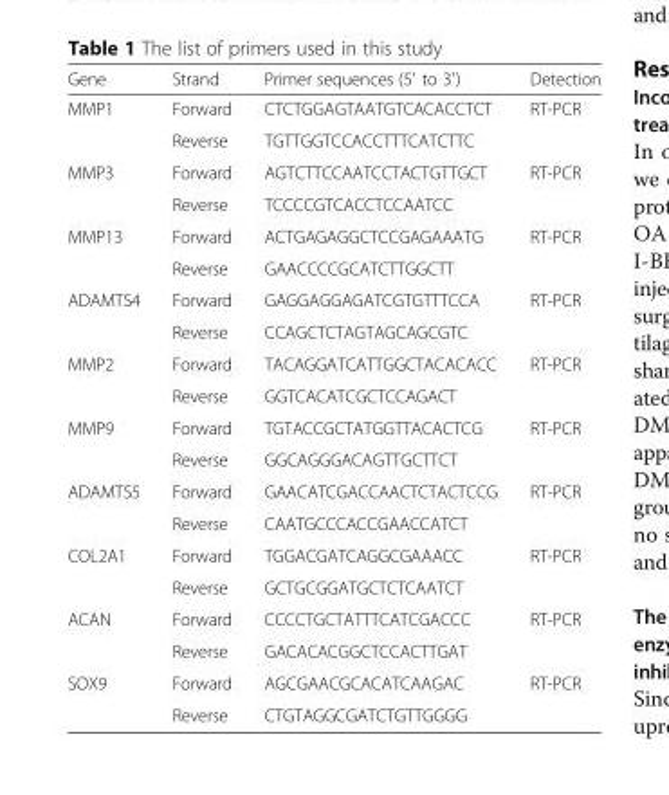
<table><thead><tr><td>Gene</td><td>Strand</td><td>Primer sequences (5′ to 3′)</td><td>Detection</td></tr></thead><tbody><tr><td rowspan="2">MMP1</td><td>Forward</td><td>CTCTGGAGTAATGTCACACCTCT</td><td rowspan="2">RT-PCR</td></tr><tr><td>Reverse</td><td>TGTTGGTCCACCTTTCATCTTC</td></tr><tr><td rowspan="2">MMP3</td><td>Forward</td><td>AGTCTTCCAATCCTACTGTTGCT</td><td rowspan="2">RT-PCR</td></tr><tr><td>Reverse</td><td>TCCCCGTCACCTCCAATCC</td></tr><tr><td rowspan="2">MMP13</td><td>Forward</td><td>ACTGAGAGGCTCCGAGAAATG</td><td rowspan="2">RT-PCR</td></tr><tr><td>Reverse</td><td>GAACCCCGCATCTTGGCTT</td></tr><tr><td rowspan="2">ADAMTS4</td><td>Forward</td><td>GAGGAGGAGATCGTGTTTCCA</td><td rowspan="2">RT-PCR</td></tr><tr><td>Reverse</td><td>CCAGCTCTAGTAGCAGCGTC</td></tr><tr><td rowspan="2">MMP2</td><td>Forward</td><td>TACAGGATCATTGGCTACACACC</td><td rowspan="2">RT-PCR</td></tr><tr><td>Reverse</td><td>GGTCACATCGCTCCAGACT</td></tr><tr><td rowspan="2">MMP9</td><td>Forward</td><td>TGTACCGCTATGGTTACACTCG</td><td rowspan="2">RT-PCR</td></tr><tr><td>Reverse</td><td>GGCAGGGACAGTTGCTTCT</td></tr><tr><td rowspan="2">ADAMTS5</td><td>Forward</td><td>GAACATCGACCAACTCTACTCCG</td><td rowspan="2">RT-PCR</td></tr><tr><td>Reverse</td><td>CAATGCCCACCGAACCATCT</td></tr><tr><td rowspan="2">COL2A1</td><td>Forward</td><td>TGGACGATCAGGCGAAACC</td><td rowspan="2">RT-PCR</td></tr><tr><td>Reverse</td><td>GCTGCGGATGCTCTCAATCT</td></tr><tr><td rowspan="2">ACAN</td><td>Forward</td><td>CCCCTGCTATTTCATCGACCC</td><td rowspan="2">RT-PCR</td></tr><tr><td>Reverse</td><td>GACACACGGCTCCACTTGAT</td></tr><tr><td rowspan="2">SOX9</td><td>Forward</td><td>AGCGAACGCACATCAAGAC</td><td rowspan="2">RT-PCR</td></tr><tr><td>Reverse</td><td>CTGTAGGCGATCTGTTGGGG</td></tr></tbody></table>